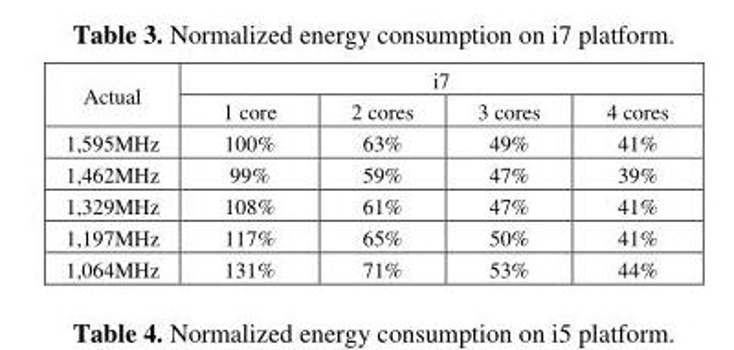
<table><thead><tr><td rowspan="2">Actual</td><td colspan="4">i7</td></tr><tr><td>1 core</td><td>2 cores</td><td>3 cores</td><td>4 cores</td></tr></thead><tbody><tr><td>1,595MHz</td><td>100%</td><td>63%</td><td>49%</td><td>41%</td></tr><tr><td>1,462MHz</td><td>99%</td><td>59%</td><td>47%</td><td>39%</td></tr><tr><td>1,329MHz</td><td>108%</td><td>61%</td><td>47%</td><td>41%</td></tr><tr><td>1,197MHz</td><td>117%</td><td>65%</td><td>50%</td><td>41%</td></tr><tr><td>1,064MHz</td><td>131%</td><td>71%</td><td>53%</td><td>44%</td></tr></tbody></table>